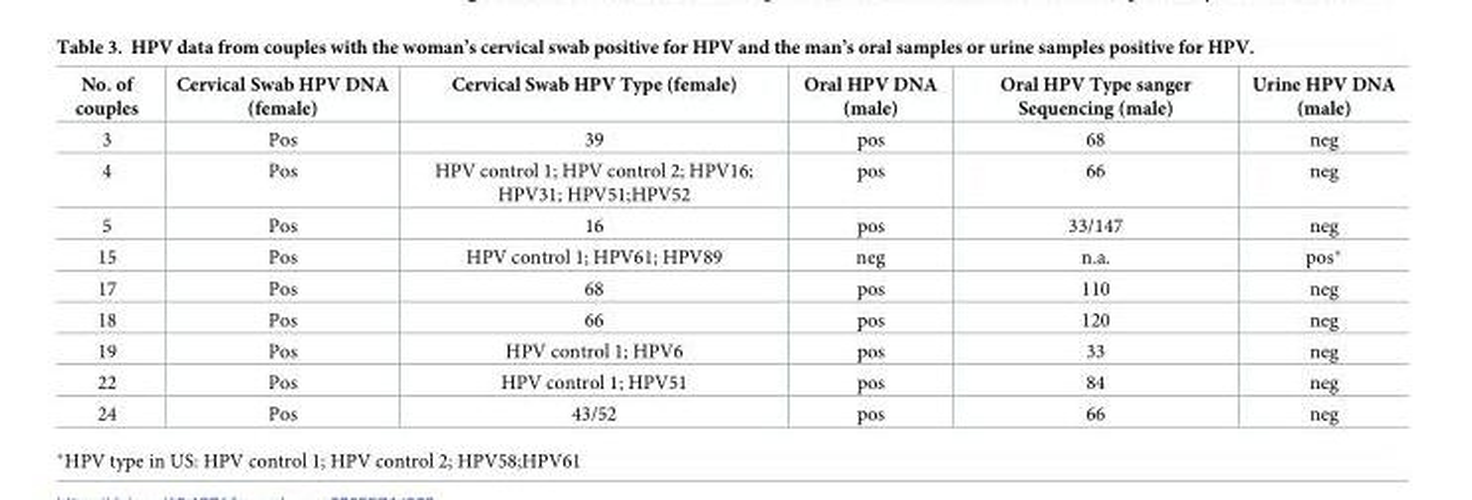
<table><thead><tr><td>No. of couples</td><td>Cervical Swab HPV DNA (female)</td><td>Cervical Swab HPV Type (female)</td><td>Oral HPV DNA (male)</td><td>Oral HPV Type sanger Sequencing (male)</td><td>Urine HPV DNA (male)</td></tr></thead><tbody><tr><td>3</td><td>Pos</td><td>39</td><td>pos</td><td>68</td><td>neg</td></tr><tr><td>4</td><td>Pos</td><td>HPV control 1; HPV control 2; HPV16; HPV31; HPV51;HPV52</td><td>pos</td><td>66</td><td>neg</td></tr><tr><td>5</td><td>Pos</td><td>16</td><td>pos</td><td>33/147</td><td>neg</td></tr><tr><td>15</td><td>Pos</td><td>HPV control 1; HPV61; HPV89</td><td>neg</td><td>n.a.</td><td>pos*</td></tr><tr><td>17</td><td>Pos</td><td>68</td><td>pos</td><td>110</td><td>neg</td></tr><tr><td>18</td><td>Pos</td><td>66</td><td>pos</td><td>120</td><td>neg</td></tr><tr><td>19</td><td>Pos</td><td>HPV control 1; HPV6</td><td>pos</td><td>33</td><td>neg</td></tr><tr><td>22</td><td>Pos</td><td>HPV control 1; HPV51</td><td>pos</td><td>84</td><td>neg</td></tr><tr><td>24</td><td>Pos</td><td>43/52</td><td>pos</td><td>66</td><td>neg</td></tr></tbody></table>